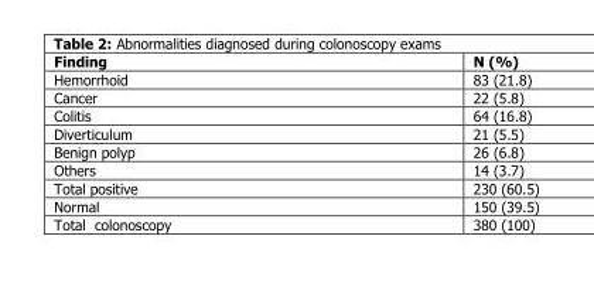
<table><thead><tr><td>Finding</td><td>N (%)</td></tr></thead><tbody><tr><td>Hemorrhoid</td><td>83 (21.8)</td></tr><tr><td>Cancer</td><td>22 (5.8)</td></tr><tr><td>Colitis</td><td>64 (16.8)</td></tr><tr><td>Diverticulum</td><td>21 (5.5)</td></tr><tr><td>Benign polyp</td><td>26 (6.8)</td></tr><tr><td>Others</td><td>14 (3.7)</td></tr><tr><td>Total positive</td><td>230 (60.5)</td></tr><tr><td>Normal</td><td>150 (39.5)</td></tr><tr><td>Total colonoscopy</td><td>380 (100)</td></tr></tbody></table>